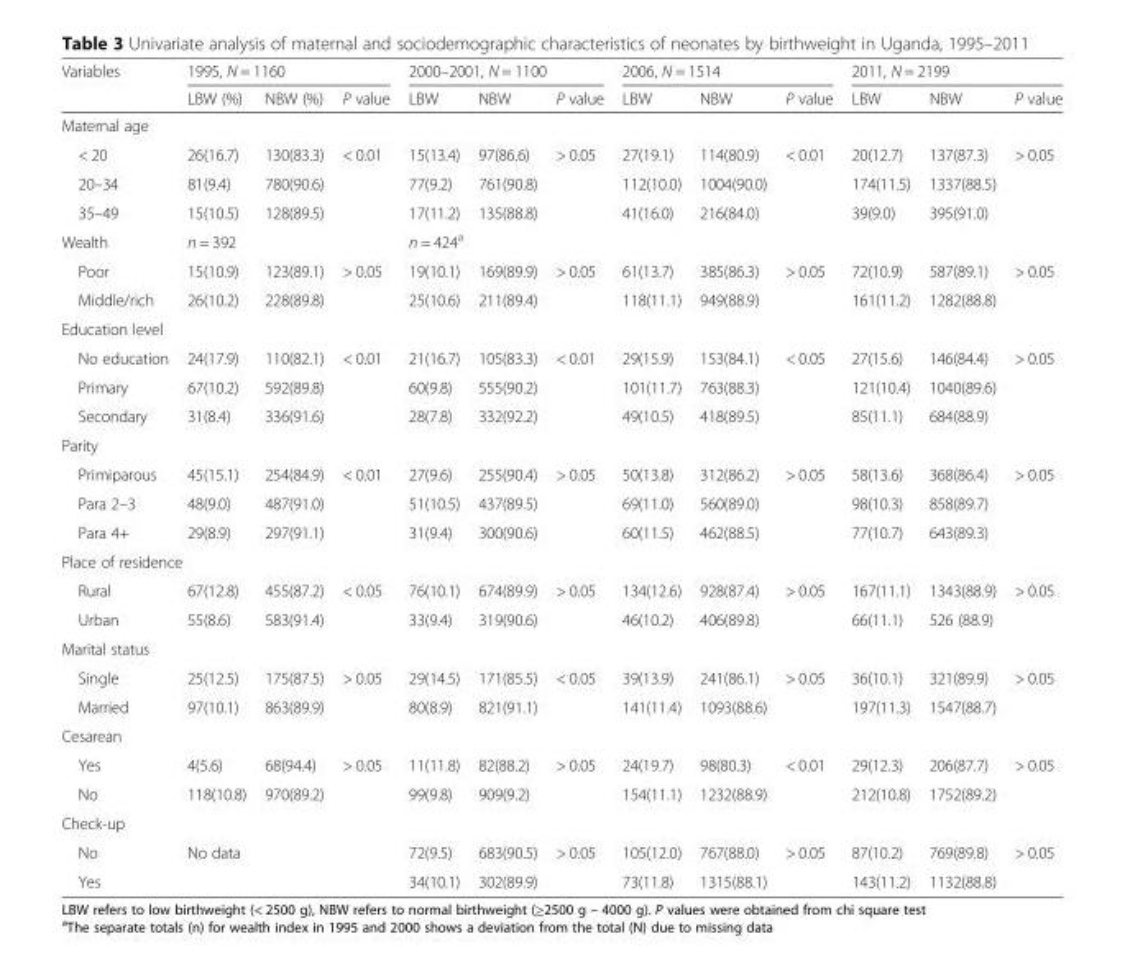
<table><thead><tr><td rowspan="2">Variables</td><td colspan="3">1995, N = 1160</td><td colspan="3">2000–2001, N = 1100</td><td colspan="3">2006, N = 1514</td><td colspan="3">2011, N = 2199</td></tr><tr><td>LBW (%)</td><td>NBW (%)</td><td>P value</td><td>LBW</td><td>NBW</td><td>P value</td><td>LBW</td><td>NBW</td><td>P value</td><td>LBW</td><td>NBW</td><td>P value</td></tr></thead><tbody><tr><td colspan="13">Maternal age</td></tr><tr><td>&lt; 20</td><td>26(16.7)</td><td>130(83.3)</td><td>&lt; 0.01</td><td>15(13.4)</td><td>97(86.6)</td><td>&gt; 0.05</td><td>27(19.1)</td><td>114(80.9)</td><td>&lt; 0.01</td><td>20(12.7)</td><td>137(87.3)</td><td>&gt; 0.05</td></tr><tr><td>20–34</td><td>81(9.4)</td><td>780(90.6)</td><td></td><td>77(9.2)</td><td>761(90.8)</td><td></td><td>112(10.0)</td><td>1004(90.0)</td><td></td><td>174(11.5)</td><td>1337(88.5)</td><td></td></tr><tr><td>35–49</td><td>15(10.5)</td><td>128(89.5)</td><td></td><td>17(11.2)</td><td>135(88.8)</td><td></td><td>41(16.0)</td><td>216(84.0)</td><td></td><td>39(9.0)</td><td>395(91.0)</td><td></td></tr><tr><td>Wealth</td><td colspan="2">n = 392</td><td></td><td colspan="2">n = 424<sup>a</sup></td><td></td><td></td><td></td><td></td><td></td><td></td><td></td></tr><tr><td>Poor</td><td>15(10.9)</td><td>123(89.1)</td><td>&gt; 0.05</td><td>19(10.1)</td><td>169(89.9)</td><td>&gt; 0.05</td><td>61(13.7)</td><td>385(86.3)</td><td>&gt; 0.05</td><td>72(10.9)</td><td>587(89.1)</td><td>&gt; 0.05</td></tr><tr><td>Middle/rich</td><td>26(10.2)</td><td>228(89.8)</td><td></td><td>25(10.6)</td><td>211(89.4)</td><td></td><td>118(11.1)</td><td>949(88.9)</td><td></td><td>161(11.2)</td><td>1282(88.8)</td><td></td></tr><tr><td colspan="13">Education level</td></tr><tr><td>No education</td><td>24(17.9)</td><td>110(82.1)</td><td>&lt; 0.01</td><td>21(16.7)</td><td>105(83.3)</td><td>&lt; 0.01</td><td>29(15.9)</td><td>153(84.1)</td><td>&lt; 0.05</td><td>27(15.6)</td><td>146(84.4)</td><td>&gt; 0.05</td></tr><tr><td>Primary</td><td>67(10.2)</td><td>592(89.8)</td><td></td><td>60(9.8)</td><td>555(90.2)</td><td></td><td>101(11.7)</td><td>763(88.3)</td><td></td><td>121(10.4)</td><td>1040(89.6)</td><td></td></tr><tr><td>Secondary</td><td>31(8.4)</td><td>336(91.6)</td><td></td><td>28(7.8)</td><td>332(92.2)</td><td></td><td>49(10.5)</td><td>418(89.5)</td><td></td><td>85(11.1)</td><td>684(88.9)</td><td></td></tr><tr><td colspan="13">Parity</td></tr><tr><td>Primiparous</td><td>45(15.1)</td><td>254(84.9)</td><td>&lt; 0.01</td><td>27(9.6)</td><td>255(90.4)</td><td>&gt; 0.05</td><td>50(13.8)</td><td>312(86.2)</td><td>&gt; 0.05</td><td>58(13.6)</td><td>368(86.4)</td><td>&gt; 0.05</td></tr><tr><td>Para 2–3</td><td>48(9.0)</td><td>487(91.0)</td><td></td><td>51(10.5)</td><td>437(89.5)</td><td></td><td>69(11.0)</td><td>560(89.0)</td><td></td><td>98(10.3)</td><td>858(89.7)</td><td></td></tr><tr><td>Para 4+</td><td>29(8.9)</td><td>297(91.1)</td><td></td><td>31(9.4)</td><td>300(90.6)</td><td></td><td>60(11.5)</td><td>462(88.5)</td><td></td><td>77(10.7)</td><td>643(89.3)</td><td></td></tr><tr><td colspan="13">Place of residence</td></tr><tr><td>Rural</td><td>67(12.8)</td><td>455(87.2)</td><td>&lt; 0.05</td><td>76(10.1)</td><td>674(89.9)</td><td>&gt; 0.05</td><td>134(12.6)</td><td>928(87.4)</td><td>&gt; 0.05</td><td>167(11.1)</td><td>1343(88.9)</td><td>&gt; 0.05</td></tr><tr><td>Urban</td><td>55(8.6)</td><td>583(91.4)</td><td></td><td>33(9.4)</td><td>319(90.6)</td><td></td><td>46(10.2)</td><td>406(89.8)</td><td></td><td>66(11.1)</td><td>526 (88.9)</td><td></td></tr><tr><td colspan="13">Marital status</td></tr><tr><td>Single</td><td>25(12.5)</td><td>175(87.5)</td><td>&gt; 0.05</td><td>29(14.5)</td><td>171(85.5)</td><td>&lt; 0.05</td><td>39(13.9)</td><td>241(86.1)</td><td>&gt; 0.05</td><td>36(10.1)</td><td>321(89.9)</td><td>&gt; 0.05</td></tr><tr><td>Married</td><td>97(10.1)</td><td>863(89.9)</td><td></td><td>80(8.9)</td><td>821(91.1)</td><td></td><td>141(11.4)</td><td>1093(88.6)</td><td></td><td>197(11.3)</td><td>1547(88.7)</td><td></td></tr><tr><td colspan="13">Cesarean</td></tr><tr><td>Yes</td><td>4(5.6)</td><td>68(94.4)</td><td>&gt; 0.05</td><td>11(11.8)</td><td>82(88.2)</td><td>&gt; 0.05</td><td>24(19.7)</td><td>98(80.3)</td><td>&lt; 0.01</td><td>29(12.3)</td><td>206(87.7)</td><td>&gt; 0.05</td></tr><tr><td>No</td><td>118(10.8)</td><td>970(89.2)</td><td></td><td>99(9.8)</td><td>909(9.2)</td><td></td><td>154(11.1)</td><td>1232(88.9)</td><td></td><td>212(10.8)</td><td>1752(89.2)</td><td></td></tr><tr><td colspan="13">Check-up</td></tr><tr><td>No</td><td>No data</td><td></td><td></td><td>72(9.5)</td><td>683(90.5)</td><td>&gt; 0.05</td><td>105(12.0)</td><td>767(88.0)</td><td>&gt; 0.05</td><td>87(10.2)</td><td>769(89.8)</td><td>&gt; 0.05</td></tr><tr><td>Yes</td><td></td><td></td><td></td><td>34(10.1)</td><td>302(89.9)</td><td></td><td>73(11.8)</td><td>1315(88.1)</td><td></td><td>143(11.2)</td><td>1132(88.8)</td><td></td></tr></tbody></table>